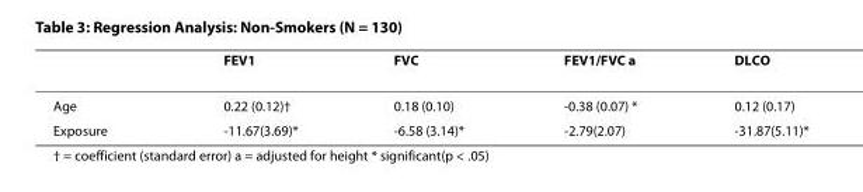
<table><thead><tr><td></td><td>FEV1</td><td>FVC</td><td>FEV1/FVC a</td><td>DLCO</td></tr></thead><tbody><tr><td>Age</td><td>0.22 (0.12)†</td><td>0.18 (0.10)</td><td>-0.38 (0.07) *</td><td>0.12 (0.17)</td></tr><tr><td>Exposure</td><td>-11.67(3.69)*</td><td>-6.58 (3.14)*</td><td>-2.79(2.07)</td><td>-31.87(5.11)*</td></tr></tbody></table>